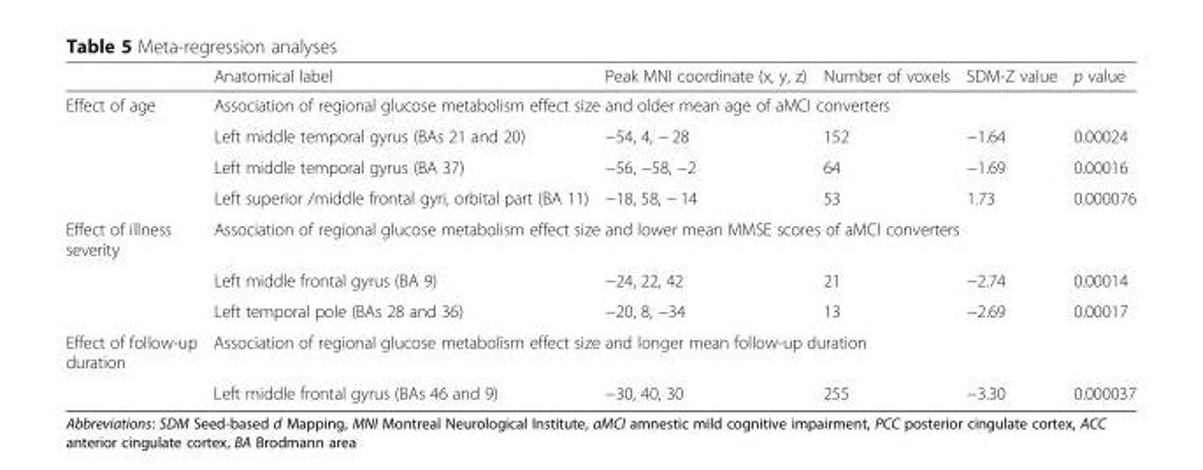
<table><thead><tr><td></td><td>Anatomical label</td><td>Peak MNI coordinate (x, y, z)</td><td>Number of voxels</td><td>SDM-Z value</td><td>p value</td></tr></thead><tbody><tr><td rowspan="4">Effect of age</td><td colspan="5">Association of regional glucose metabolism effect size and older mean age of aMCI converters</td></tr><tr><td>Left middle temporal gyrus (BAs 21 and 20)</td><td>−54, 4, − 28</td><td>152</td><td>−1.64</td><td>0.00024</td></tr><tr><td>Left middle temporal gyrus (BA 37)</td><td>−56, −58, −2</td><td>64</td><td>−1.69</td><td>0.00016</td></tr><tr><td>Left superior /middle frontal gyri, orbital part (BA 11)</td><td>−18, 58, − 14</td><td>53</td><td>1.73</td><td>0.000076</td></tr><tr><td rowspan="3">Effect of illness severity</td><td colspan="5">Association of regional glucose metabolism effect size and lower mean MMSE scores of aMCI converters</td></tr><tr><td>Left middle frontal gyrus (BA 9)</td><td>−24, 22, 42</td><td>21</td><td>−2.74</td><td>0.00014</td></tr><tr><td>Left temporal pole (BAs 28 and 36)</td><td>−20, 8, −34</td><td>13</td><td>−2.69</td><td>0.00017</td></tr><tr><td rowspan="2">Effect of follow-up duration</td><td colspan="5">Association of regional glucose metabolism effect size and longer mean follow-up duration</td></tr><tr><td>Left middle frontal gyrus (BAs 46 and 9)</td><td>−30, 40, 30</td><td>255</td><td>−3.30</td><td>0.000037</td></tr></tbody></table>